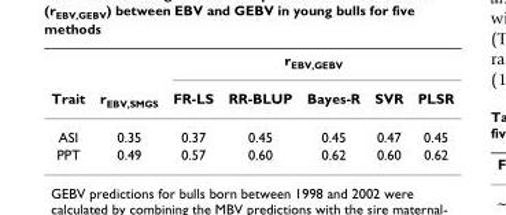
<table><thead><tr><td rowspan="2">Trait</td><td rowspan="2">r<sub>EBV,SMGS</sub></td><td colspan="5">r<sub>EBV,GEBV</sub></td></tr><tr><td>FR-LS</td><td>RR-BLUP</td><td>Bayes-R</td><td>SVR</td><td>PLSR</td></tr></thead><tbody><tr><td>ASI</td><td>0.35</td><td>0.37</td><td>0.45</td><td>0.45</td><td>0.47</td><td>0.45</td></tr><tr><td>PPT</td><td>0.49</td><td>0.57</td><td>0.60</td><td>0.62</td><td>0.60</td><td>0.62</td></tr></tbody></table>